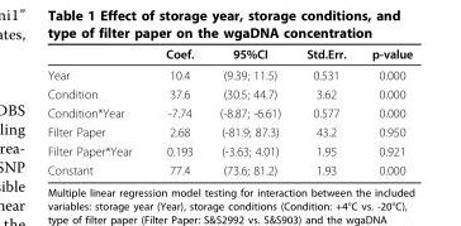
<table><thead><tr><td></td><td>Coef.</td><td>95%CI</td><td>Std.Err.</td><td>p-value</td></tr></thead><tbody><tr><td>Year</td><td>10.4</td><td>(9.39; 11.5)</td><td>0.531</td><td>0.000</td></tr><tr><td>Condition</td><td>37.6</td><td>(30.5; 44.7)</td><td>3.62</td><td>0.000</td></tr><tr><td>Condition*Year</td><td>-7.74</td><td>(-8.87; -6.61)</td><td>0.577</td><td>0.000</td></tr><tr><td>Filter Paper</td><td>2.68</td><td>(-81.9; 87.3)</td><td>43.2</td><td>0.950</td></tr><tr><td>Filter Paper*Year</td><td>0.193</td><td>(-3.63; 4.01)</td><td>1.95</td><td>0.921</td></tr><tr><td>Constant</td><td>77.4</td><td>(73.6; 81.2)</td><td>1.93</td><td>0.000</td></tr></tbody></table>